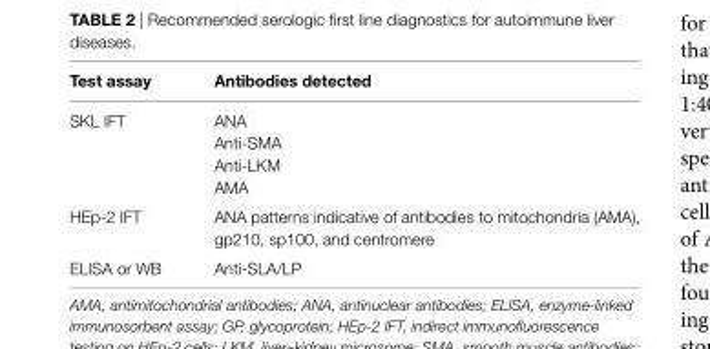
<table><thead><tr><td>Test assay</td><td>Antibodies detected</td></tr></thead><tbody><tr><td>SKL IFT</td><td>ANA Anti-SMA Anti-LKM AMA</td></tr><tr><td>HEp-2 IFT</td><td>ANA patterns indicative of antibodies to mitochondria (AMA), gp210, sp100, and centromere</td></tr><tr><td>ELISA or WB</td><td>Anti-SLA/LP</td></tr></tbody></table>